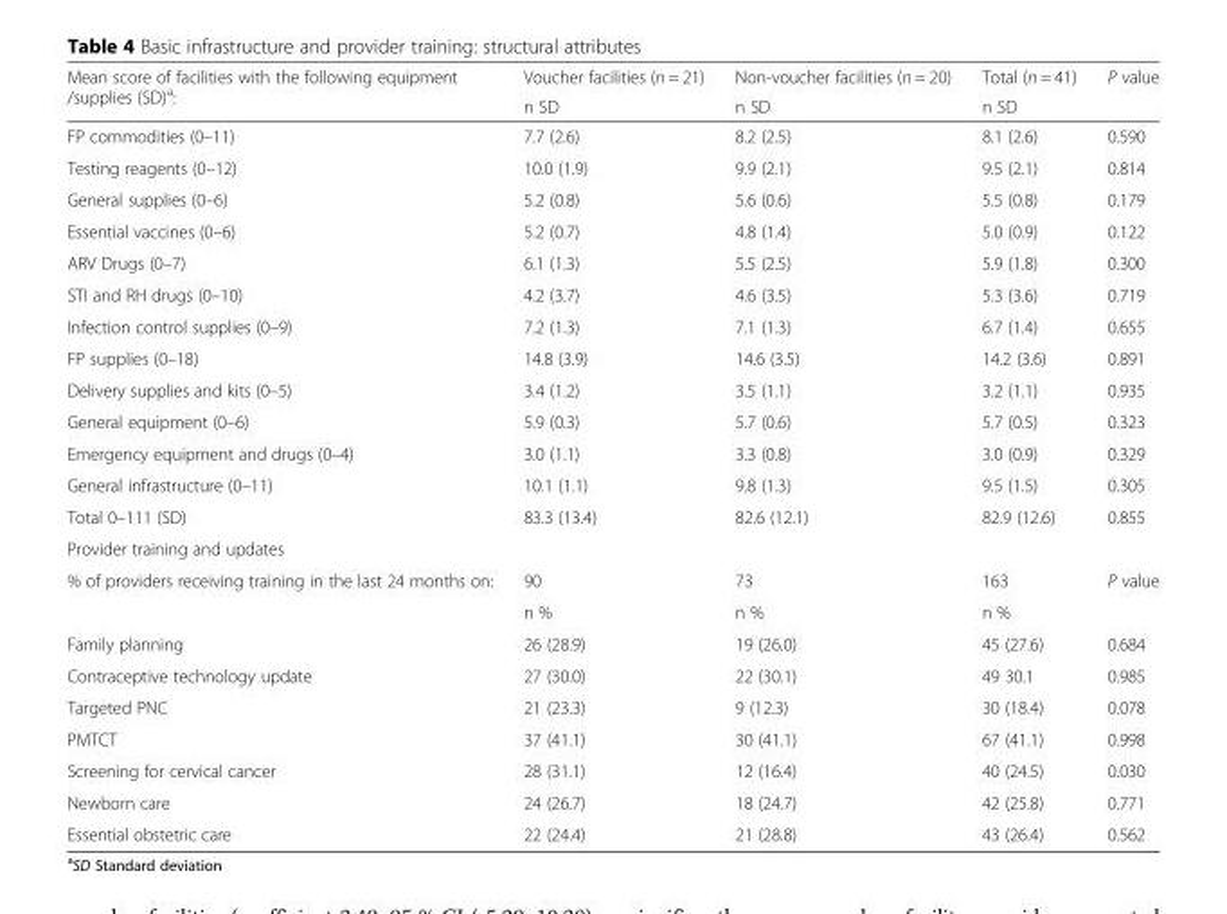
<table><thead><tr><td rowspan="2">Mean score of facilities with the following equipment /supplies (SD)<sup>a</sup>:</td><td rowspan="2">Voucher facilities (n = 21) n SD</td><td rowspan="2">Non-voucher facilities (n = 20) n SD</td><td rowspan="2">Total (n = 41) n SD</td><td rowspan="2">P value</td></tr><tr></tr></thead><tbody><tr><td>FP commodities (0–11)</td><td>7.7 (2.6)</td><td>8.2 (2.5)</td><td>8.1 (2.6)</td><td>0.590</td></tr><tr><td>Testing reagents (0–12)</td><td>10.0 (1.9)</td><td>9.9 (2.1)</td><td>9.5 (2.1)</td><td>0.814</td></tr><tr><td>General supplies (0–6)</td><td>5.2 (0.8)</td><td>5.6 (0.6)</td><td>5.5 (0.8)</td><td>0.179</td></tr><tr><td>Essential vaccines (0–6)</td><td>5.2 (0.7)</td><td>4.8 (1.4)</td><td>5.0 (0.9)</td><td>0.122</td></tr><tr><td>ARV Drugs (0–7)</td><td>6.1 (1.3)</td><td>5.5 (2.5)</td><td>5.9 (1.8)</td><td>0.300</td></tr><tr><td>STI and RH drugs (0–10)</td><td>4.2 (3.7)</td><td>4.6 (3.5)</td><td>5.3 (3.6)</td><td>0.719</td></tr><tr><td>Infection control supplies (0–9)</td><td>7.2 (1.3)</td><td>7.1 (1.3)</td><td>6.7 (1.4)</td><td>0.655</td></tr><tr><td>FP supplies (0–18)</td><td>14.8 (3.9)</td><td>14.6 (3.5)</td><td>14.2 (3.6)</td><td>0.891</td></tr><tr><td>Delivery supplies and kits (0–5)</td><td>3.4 (1.2)</td><td>3.5 (1.1)</td><td>3.2 (1.1)</td><td>0.935</td></tr><tr><td>General equipment (0–6)</td><td>5.9 (0.3)</td><td>5.7 (0.6)</td><td>5.7 (0.5)</td><td>0.323</td></tr><tr><td>Emergency equipment and drugs (0–4)</td><td>3.0 (1.1)</td><td>3.3 (0.8)</td><td>3.0 (0.9)</td><td>0.329</td></tr><tr><td>General infrastructure (0–11)</td><td>10.1 (1.1)</td><td>9.8 (1.3)</td><td>9.5 (1.5)</td><td>0.305</td></tr><tr><td>Total 0–111 (SD)</td><td>83.3 (13.4)</td><td>82.6 (12.1)</td><td>82.9 (12.6)</td><td>0.855</td></tr><tr><td colspan="5">Provider training and updates</td></tr><tr><td rowspan="2">% of providers receiving training in the last 24 months on:</td><td>90</td><td>73</td><td>163</td><td rowspan="2">P value</td></tr><tr><td>n %</td><td>n %</td><td>n %</td></tr><tr><td>Family planning</td><td>26 (28.9)</td><td>19 (26.0)</td><td>45 (27.6)</td><td>0.684</td></tr><tr><td>Contraceptive technology update</td><td>27 (30.0)</td><td>22 (30.1)</td><td>49 30.1</td><td>0.985</td></tr><tr><td>Targeted PNC</td><td>21 (23.3)</td><td>9 (12.3)</td><td>30 (18.4)</td><td>0.078</td></tr><tr><td>PMTCT</td><td>37 (41.1)</td><td>30 (41.1)</td><td>67 (41.1)</td><td>0.998</td></tr><tr><td>Screening for cervical cancer</td><td>28 (31.1)</td><td>12 (16.4)</td><td>40 (24.5)</td><td>0.030</td></tr><tr><td>Newborn care</td><td>24 (26.7)</td><td>18 (24.7)</td><td>42 (25.8)</td><td>0.771</td></tr><tr><td>Essential obstetric care</td><td>22 (24.4)</td><td>21 (28.8)</td><td>43 (26.4)</td><td>0.562</td></tr></tbody></table>